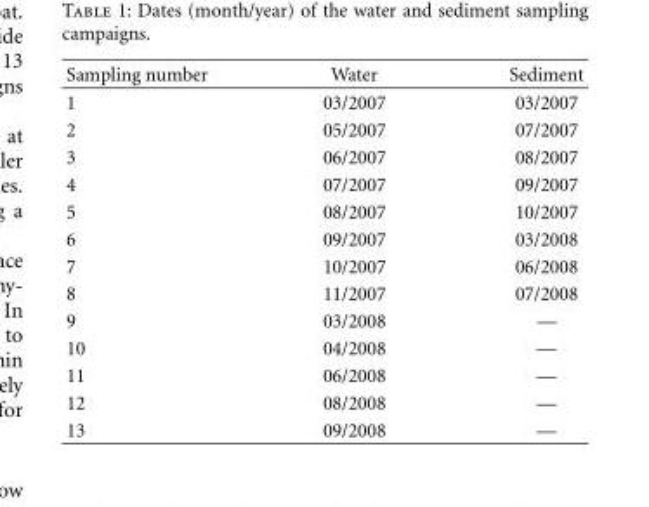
<table><thead><tr><td>Sampling number</td><td>Water</td><td>Sediment</td></tr></thead><tbody><tr><td>1</td><td>03/2007</td><td>03/2007</td></tr><tr><td>2</td><td>05/2007</td><td>07/2007</td></tr><tr><td>3</td><td>06/2007</td><td>08/2007</td></tr><tr><td>4</td><td>07/2007</td><td>09/2007</td></tr><tr><td>5</td><td>08/2007</td><td>10/2007</td></tr><tr><td>6</td><td>09/2007</td><td>03/2008</td></tr><tr><td>7</td><td>10/2007</td><td>06/2008</td></tr><tr><td>8</td><td>11/2007</td><td>07/2008</td></tr><tr><td>9</td><td>03/2008</td><td>—</td></tr><tr><td>10</td><td>04/2008</td><td>—</td></tr><tr><td>11</td><td>06/2008</td><td>—</td></tr><tr><td>12</td><td>08/2008</td><td>—</td></tr><tr><td>13</td><td>09/2008</td><td>—</td></tr></tbody></table>